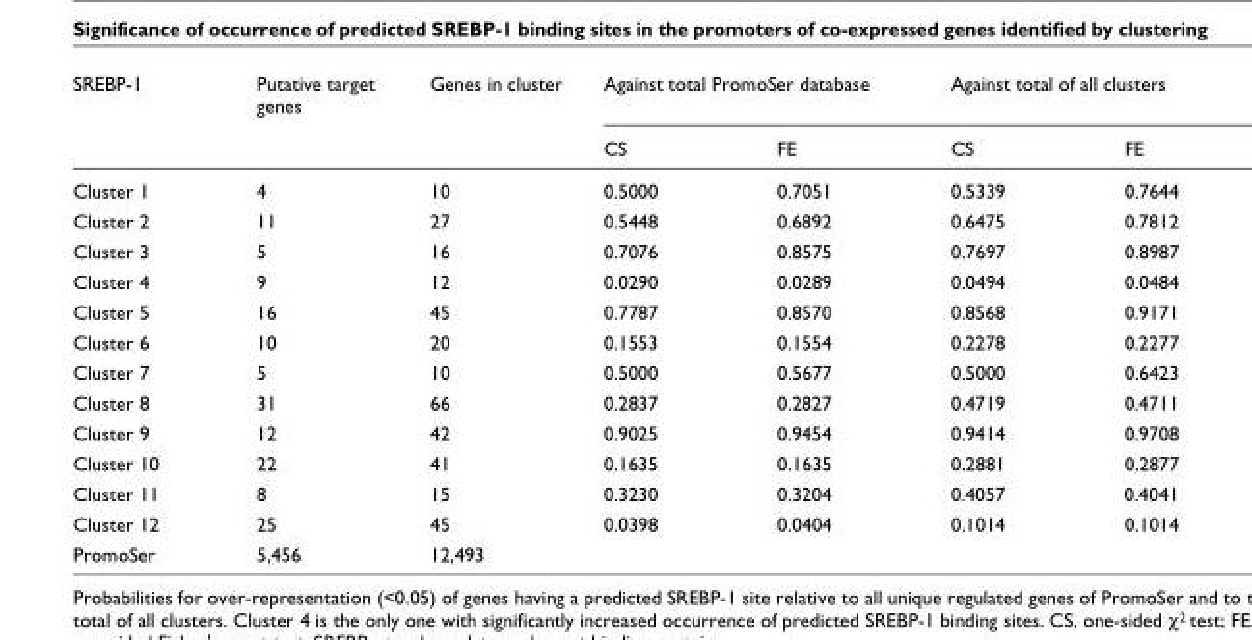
<table><thead><tr><td rowspan="2">SREBP-1</td><td rowspan="2">Putative target genes</td><td rowspan="2">Genes in cluster</td><td colspan="2">Against total PromoSer database</td><td colspan="2">Against total of all clusters</td></tr><tr><td>CS</td><td>FE</td><td>CS</td><td>FE</td></tr></thead><tbody><tr><td>Cluster 1</td><td>4</td><td>10</td><td>0.5000</td><td>0.7051</td><td>0.5339</td><td>0.7644</td></tr><tr><td>Cluster 2</td><td>11</td><td>27</td><td>0.5448</td><td>0.6892</td><td>0.6475</td><td>0.7812</td></tr><tr><td>Cluster 3</td><td>5</td><td>16</td><td>0.7076</td><td>0.8575</td><td>0.7697</td><td>0.8987</td></tr><tr><td>Cluster 4</td><td>9</td><td>12</td><td>0.0290</td><td>0.0289</td><td>0.0494</td><td>0.0484</td></tr><tr><td>Cluster 5</td><td>16</td><td>45</td><td>0.7787</td><td>0.8570</td><td>0.8568</td><td>0.9171</td></tr><tr><td>Cluster 6</td><td>10</td><td>20</td><td>0.1553</td><td>0.1554</td><td>0.2278</td><td>0.2277</td></tr><tr><td>Cluster 7</td><td>5</td><td>10</td><td>0.5000</td><td>0.5677</td><td>0.5000</td><td>0.6423</td></tr><tr><td>Cluster 8</td><td>31</td><td>66</td><td>0.2837</td><td>0.2827</td><td>0.4719</td><td>0.4711</td></tr><tr><td>Cluster 9</td><td>12</td><td>42</td><td>0.9025</td><td>0.9454</td><td>0.9414</td><td>0.9708</td></tr><tr><td>Cluster 10</td><td>22</td><td>41</td><td>0.1635</td><td>0.1635</td><td>0.2881</td><td>0.2877</td></tr><tr><td>Cluster 11</td><td>8</td><td>15</td><td>0.3230</td><td>0.3204</td><td>0.4057</td><td>0.4041</td></tr><tr><td>Cluster 12</td><td>25</td><td>45</td><td>0.0398</td><td>0.0404</td><td>0.1014</td><td>0.1014</td></tr><tr><td>PromoSer</td><td>5,456</td><td>12,493</td><td></td><td></td><td></td><td></td></tr></tbody></table>